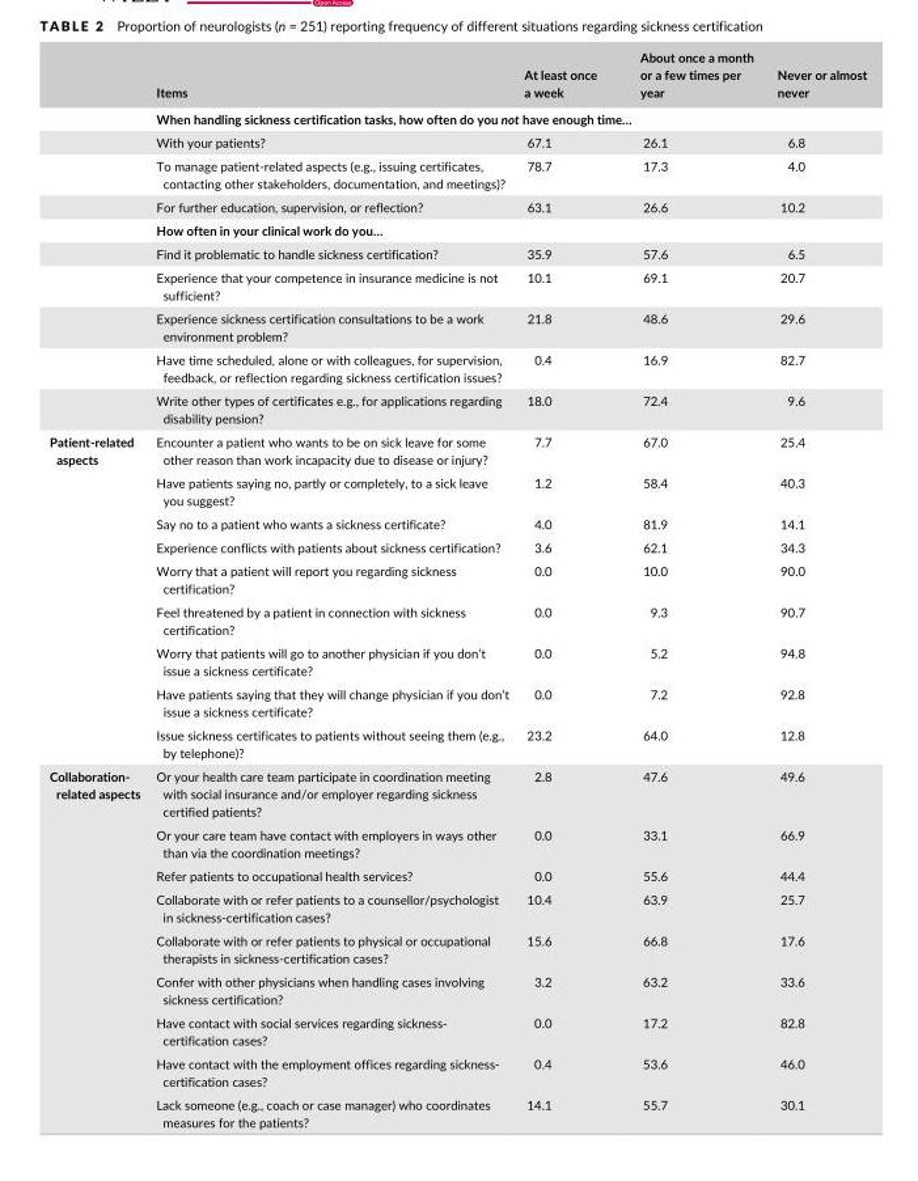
<table><thead><tr><td></td><td>Items</td><td>At least once a week</td><td>About once a month or a few times per year</td><td>Never or almost never</td></tr></thead><tbody><tr><td></td><td colspan="4">When handling sickness certification tasks, how often do you not have enough time…</td></tr><tr><td></td><td>With your patients?</td><td>67.1</td><td>26.1</td><td>6.8</td></tr><tr><td></td><td>To manage patient- related aspects (e.g., issuing certificates, contacting other stakeholders, documentation, and meetings)?</td><td>78.7</td><td>17.3</td><td>4.0</td></tr><tr><td></td><td>For further education, supervision, or reflection?</td><td>63.1</td><td>26.6</td><td>10.2</td></tr><tr><td></td><td colspan="4">How often in your clinical work do you…</td></tr><tr><td></td><td>Find it problematic to handle sickness certification?</td><td>35.9</td><td>57.6</td><td>6.5</td></tr><tr><td></td><td>Experience that your competence in insurance medicine is not sufficient?</td><td>10.1</td><td>69.1</td><td>20.7</td></tr><tr><td></td><td>Experience sickness certification consultations to be a work environment problem?</td><td>21.8</td><td>48.6</td><td>29.6</td></tr><tr><td></td><td>Have time scheduled, alone or with colleagues, for supervision, feedback, or reflection regarding sickness certification issues?</td><td>0.4</td><td>16.9</td><td>82.7</td></tr><tr><td></td><td>Write other types of certificates e.g., for applications regarding disability pension?</td><td>18.0</td><td>72.4</td><td>9.6</td></tr><tr><td rowspan="9">Patient-related aspects</td><td>Encounter a patient who wants to be on sick leave for some other reason than work incapacity due to disease or injury?</td><td>7.7</td><td>67.0</td><td>25.4</td></tr><tr><td>Have patients saying no, partly or completely, to a sick leave you suggest?</td><td>1.2</td><td>58.4</td><td>40.3</td></tr><tr><td>Say no to a patient who wants a sickness certificate?</td><td>4.0</td><td>81.9</td><td>14.1</td></tr><tr><td>Experience conflicts with patients about sickness certification?</td><td>3.6</td><td>62.1</td><td>34.3</td></tr><tr><td>Worry that a patient will report you regarding sickness certification?</td><td>0.0</td><td>10.0</td><td>90.0</td></tr><tr><td>Feel threatened by a patient in connection with sickness certification?</td><td>0.0</td><td>9.3</td><td>90.7</td></tr><tr><td>Worry that patients will go to another physician if you don’t issue a sickness certificate?</td><td>0.0</td><td>5.2</td><td>94.8</td></tr><tr><td>Have patients saying that they will change physician if you don’t issue a sickness certificate?</td><td>0.0</td><td>7.2</td><td>92.8</td></tr><tr><td>Issue sickness certificates to patients without seeing them (e.g., by telephone)?</td><td>23.2</td><td>64.0</td><td>12.8</td></tr><tr><td rowspan="9">Collaboration- related aspects</td><td>Or your health care team participate in coordination meeting with social insurance and/or employer regarding sickness certified patients?</td><td>2.8</td><td>47.6</td><td>49.6</td></tr><tr><td>Or your care team have contact with employers in ways other than via the coordination meetings?</td><td>0.0</td><td>33.1</td><td>66.9</td></tr><tr><td>Refer patients to occupational health services?</td><td>0.0</td><td>55.6</td><td>44.4</td></tr><tr><td>Collaborate with or refer patients to a counsellor/psychologist in sickness- certification cases?</td><td>10.4</td><td>63.9</td><td>25.7</td></tr><tr><td>Collaborate with or refer patients to physical or occupational therapists in sickness- certification cases?</td><td>15.6</td><td>66.8</td><td>17.6</td></tr><tr><td>Confer with other physicians when handling cases involving sickness certification?</td><td>3.2</td><td>63.2</td><td>33.6</td></tr><tr><td>Have contact with social services regarding sickness- certification cases?</td><td>0.0</td><td>17.2</td><td>82.8</td></tr><tr><td>Have contact with the employment offices regarding sickness- certification cases?</td><td>0.4</td><td>53.6</td><td>46.0</td></tr><tr><td>Lack someone (e.g., coach or case manager) who coordinates measures for the patients?</td><td>14.1</td><td>55.7</td><td>30.1</td></tr></tbody></table>